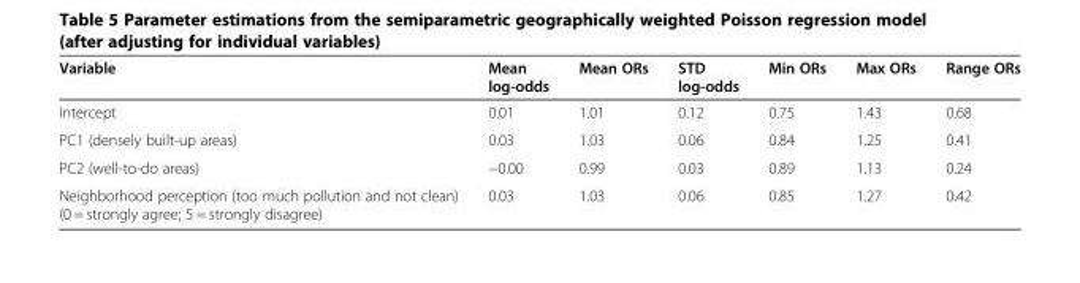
<table><thead><tr><td>Variable</td><td>Mean log-odds</td><td>Mean ORs</td><td>STD log-odds</td><td>Min ORs</td><td>Max ORs</td><td>Range ORs</td></tr></thead><tbody><tr><td>Intercept</td><td>0.01</td><td>1.01</td><td>0.12</td><td>0.75</td><td>1.43</td><td>0.68</td></tr><tr><td>PC1 (densely built-up areas)</td><td>0.03</td><td>1.03</td><td>0.06</td><td>0.84</td><td>1.25</td><td>0.41</td></tr><tr><td>PC2 (well-to-do areas)</td><td>−0.00</td><td>0.99</td><td>0.03</td><td>0.89</td><td>1.13</td><td>0.24</td></tr><tr><td>Neighborhood perception (too much pollution and not clean) (0 = strongly agree; 5 = strongly disagree)</td><td>0.03</td><td>1.03</td><td>0.06</td><td>0.85</td><td>1.27</td><td>0.42</td></tr></tbody></table>